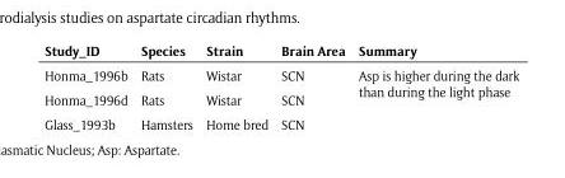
<table><thead><tr><td>Study_ID</td><td>Species</td><td>Strain</td><td>Brain Area</td><td>Summary</td></tr></thead><tbody><tr><td>Honma_1996b</td><td>Rats</td><td>Wistar</td><td>SCN</td><td rowspan="3">Asp is higher during the dark than during the light phase</td></tr><tr><td>Honma_1996d</td><td>Rats</td><td>Wistar</td><td>SCN</td></tr><tr><td>Glass_1993b</td><td>Hamsters</td><td>Home bred</td><td>SCN</td></tr></tbody></table>